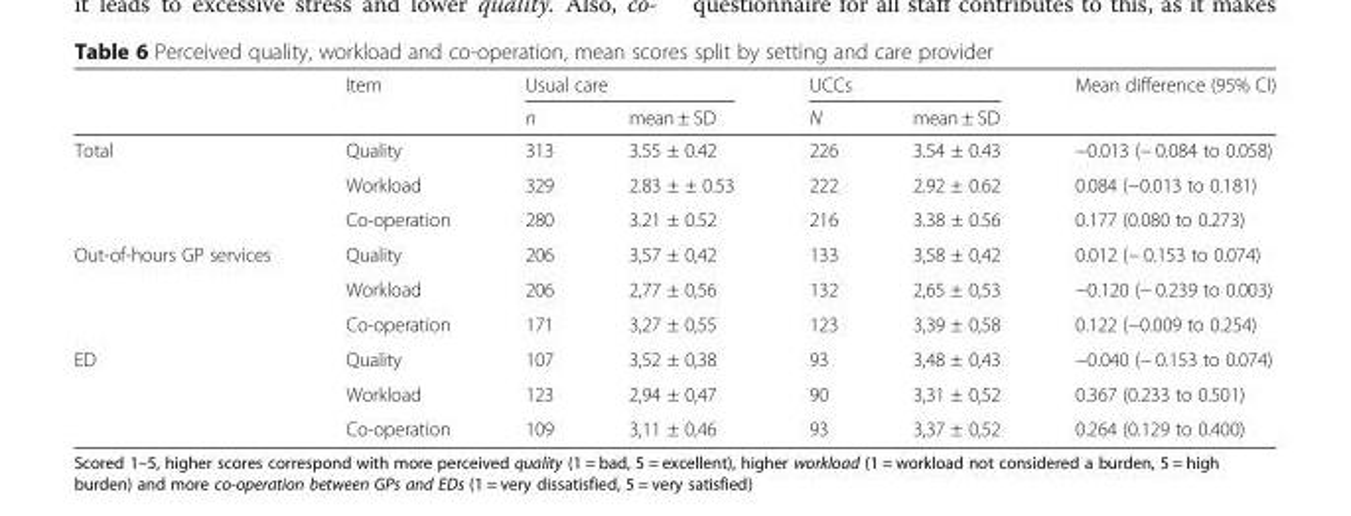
<table><thead><tr><td rowspan="2"></td><td rowspan="2">Item</td><td colspan="2">Usual care</td><td colspan="2">UCCs</td><td rowspan="2">Mean difference (95% CI)</td></tr><tr><td>n</td><td>mean ± SD</td><td>N</td><td>mean ± SD</td></tr></thead><tbody><tr><td rowspan="3">Total</td><td>Quality</td><td>313</td><td>3.55 ± 0.42</td><td>226</td><td>3.54 ± 0.43</td><td>−0.013 (− 0.084 to 0.058)</td></tr><tr><td>Workload</td><td>329</td><td>2.83 ± ± 0.53</td><td>222</td><td>2.92 ± 0.62</td><td>0.084 (−0.013 to 0.181)</td></tr><tr><td>Co-operation</td><td>280</td><td>3.21 ± 0.52</td><td>216</td><td>3.38 ± 0.56</td><td>0.177 (0.080 to 0.273)</td></tr><tr><td rowspan="3">Out-of-hours GP services</td><td>Quality</td><td>206</td><td>3,57 ± 0,42</td><td>133</td><td>3,58 ± 0,42</td><td>0.012 (− 0.153 to 0.074)</td></tr><tr><td>Workload</td><td>206</td><td>2,77 ± 0,56</td><td>132</td><td>2,65 ± 0,53</td><td>−0.120 (− 0.239 to 0.003)</td></tr><tr><td>Co-operation</td><td>171</td><td>3,27 ± 0,55</td><td>123</td><td>3,39 ± 0,58</td><td>0.122 (−0.009 to 0.254)</td></tr><tr><td rowspan="3">ED</td><td>Quality</td><td>107</td><td>3,52 ± 0,38</td><td>93</td><td>3,48 ± 0,43</td><td>−0.040 (− 0.153 to 0.074)</td></tr><tr><td>Workload</td><td>123</td><td>2,94 ± 0,47</td><td>90</td><td>3,31 ± 0,52</td><td>0.367 (0.233 to 0.501)</td></tr><tr><td>Co-operation</td><td>109</td><td>3,11 ± 0,46</td><td>93</td><td>3,37 ± 0,52</td><td>0.264 (0.129 to 0.400)</td></tr></tbody></table>